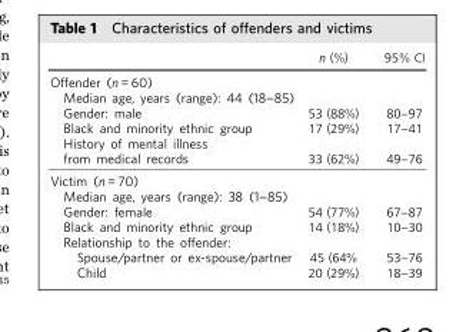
<table><thead><tr><td></td><td>n (%)</td><td>95% CI</td></tr></thead><tbody><tr><td colspan="3">Offender (n = 60)</td></tr><tr><td colspan="3">Median age, years (range): 44 (18-85)</td></tr><tr><td>Gender: male</td><td>53 (88%)</td><td>80-97</td></tr><tr><td>Black and minority ethnic group</td><td>17 (29%)</td><td>17-41</td></tr><tr><td>History of mental illness from medical records</td><td>33 (62%)</td><td>49-76</td></tr><tr><td colspan="3">Victim (n = 70)</td></tr><tr><td colspan="3">Median age, years (range): 38 (1-85)</td></tr><tr><td>Gender: female</td><td>54 (77%)</td><td>67-87</td></tr><tr><td>Black and minority ethnic group</td><td>14 (18%)</td><td>10-30</td></tr><tr><td colspan="3">Relationship to the offender:</td></tr><tr><td>Spouse/partner or ex-spouse/partner</td><td>45 (64%</td><td>53-76</td></tr><tr><td>Child</td><td>20 (29%)</td><td>18-39</td></tr></tbody></table>